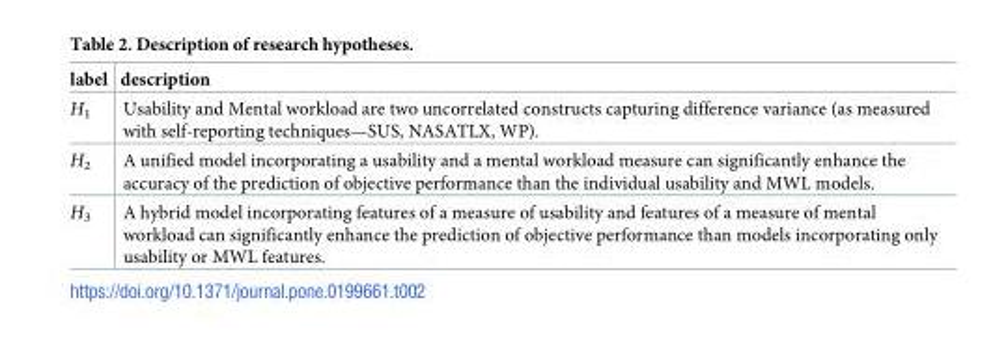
<table><thead><tr><td>label</td><td>description</td></tr></thead><tbody><tr><td>H<sub>1</sub></td><td>Usability and Mental workload are two uncorrelated constructs capturing difference variance (as measured with self-reporting techniques—SUS, NASATLX, WP).</td></tr><tr><td>H<sub>2</sub></td><td>A unified model incorporating a usability and a mental workload measure can significantly enhance the accuracy of the prediction of objective performance than the individual usability and MWL models.</td></tr><tr><td>H<sub>3</sub></td><td>A hybrid model incorporating features of a measure of usability and features of a measure of mental workload can significantly enhance the prediction of objective performance than models incorporating only usability or MWL features.</td></tr></tbody></table>